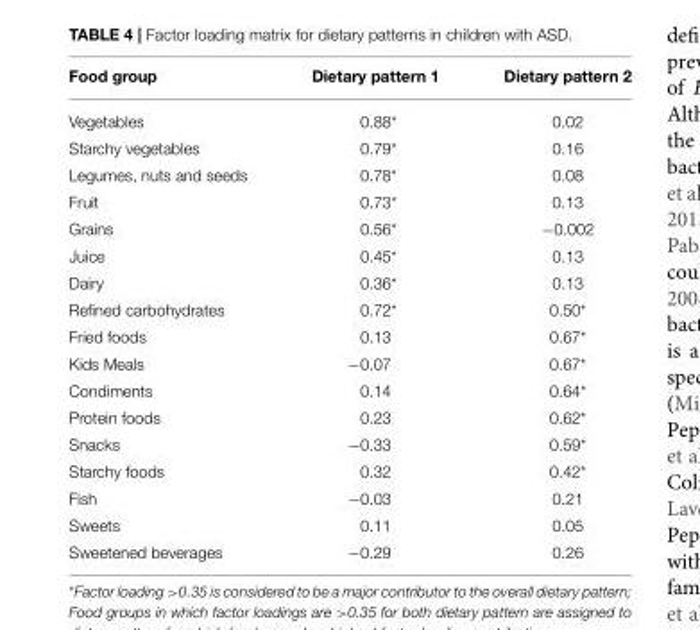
<table><thead><tr><td>Food group</td><td>Dietary pattern 1</td><td>Dietary pattern 2</td></tr></thead><tbody><tr><td>Vegetables</td><td>0.88*</td><td>0.02</td></tr><tr><td>Starchy vegetables</td><td>0.79*</td><td>0.16</td></tr><tr><td>Legumes, nuts and seeds</td><td>0.78*</td><td>0.08</td></tr><tr><td>Fruit</td><td>0.73*</td><td>0.13</td></tr><tr><td>Grains</td><td>0.56*</td><td>−0.002</td></tr><tr><td>Juice</td><td>0.45*</td><td>0.13</td></tr><tr><td>Dairy</td><td>0.36*</td><td>0.13</td></tr><tr><td>Refined carbohydrates</td><td>0.72*</td><td>0.50*</td></tr><tr><td>Fried foods</td><td>0.13</td><td>0.67*</td></tr><tr><td>Kids Meals</td><td>−0.07</td><td>0.67*</td></tr><tr><td>Condiments</td><td>0.14</td><td>0.64*</td></tr><tr><td>Protein foods</td><td>0.23</td><td>0.62*</td></tr><tr><td>Snacks</td><td>−0.33</td><td>0.59*</td></tr><tr><td>Starchy foods</td><td>0.32</td><td>0.42*</td></tr><tr><td>Fish</td><td>−0.03</td><td>0.21</td></tr><tr><td>Sweets</td><td>0.11</td><td>0.05</td></tr><tr><td>Sweetened beverages</td><td>−0.29</td><td>0.26</td></tr></tbody></table>